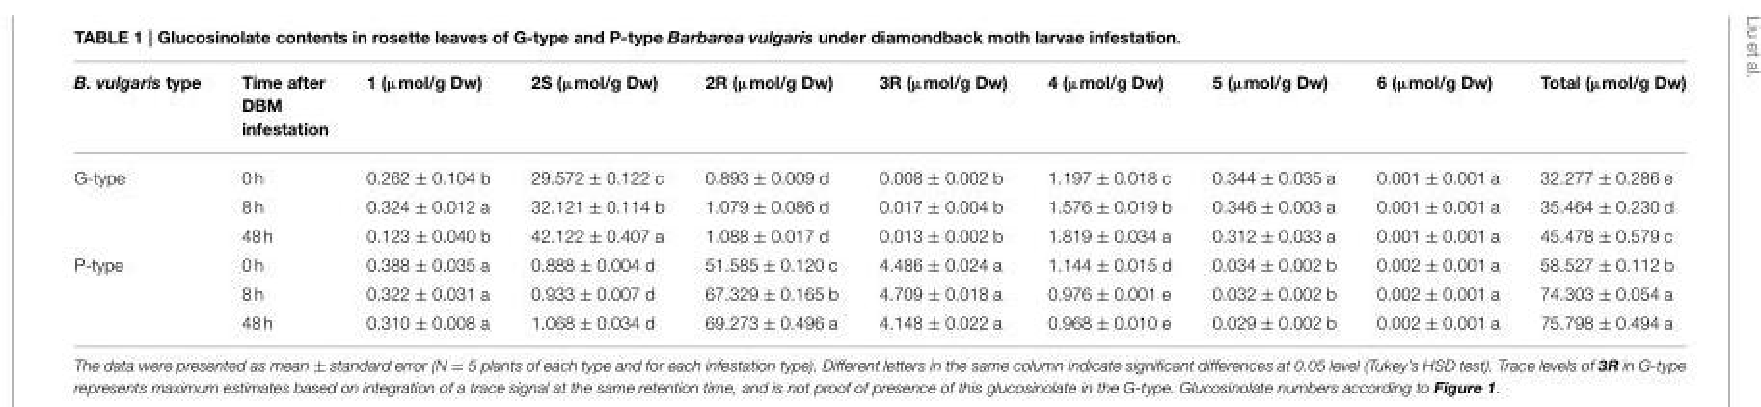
<table><thead><tr><td>B. vulgaris type</td><td>Time after DBM infestation</td><td>1 (µmol/g Dw)</td><td>2S (µmol/g Dw)</td><td>2R (µmol/g Dw)</td><td>3R (µmol/g Dw)</td><td>4 (µmol/g Dw)</td><td>5 (µmol/g Dw)</td><td>6 (µmol/g Dw)</td><td>Total (µmol/g Dw)</td></tr></thead><tbody><tr><td rowspan="3">G-type</td><td>0 h</td><td>0.262 ± 0.104 b</td><td>29.572 ± 0.122 c</td><td>0.893 ± 0.009 d</td><td>0.008 ± 0.002 b</td><td>1.197 ± 0.018 c</td><td>0.344 ± 0.035 a</td><td>0.001 ± 0.001 a</td><td>32.277 ± 0.286 e</td></tr><tr><td>8 h</td><td>0.324 ± 0.012 a</td><td>32.121 ± 0.114 b</td><td>1.079 ± 0.086 d</td><td>0.017 ± 0.004 b</td><td>1.576 ± 0.019 b</td><td>0.346 ± 0.003 a</td><td>0.001 ± 0.001 a</td><td>35.464 ± 0.230 d</td></tr><tr><td>48 h</td><td>0.123 ± 0.040 b</td><td>42.122 ± 0.407 a</td><td>1.088 ± 0.017 d</td><td>0.013 ± 0.002 b</td><td>1.819 ± 0.034 a</td><td>0.312 ± 0.033 a</td><td>0.001 ± 0.001 a</td><td>45.478 ± 0.579 c</td></tr><tr><td rowspan="3">P-type</td><td>0 h</td><td>0.388 ± 0.035 a</td><td>0.888 ± 0.004 d</td><td>51.585 ± 0.120 c</td><td>4.486 ± 0.024 a</td><td>1.144 ± 0.015 d</td><td>0.034 ± 0.002 b</td><td>0.002 ± 0.001 a</td><td>58.527 ± 0.112 b</td></tr><tr><td>8 h</td><td>0.322 ± 0.031 a</td><td>0.933 ± 0.007 d</td><td>67.329 ± 0.165 b</td><td>4.709 ± 0.018 a</td><td>0.976 ± 0.001 e</td><td>0.032 ± 0.002 b</td><td>0.002 ± 0.001 a</td><td>74.303 ± 0.054 a</td></tr><tr><td>48 h</td><td>0.310 ± 0.008 a</td><td>1.068 ± 0.034 d</td><td>69.273 ± 0.496 a</td><td>4.148 ± 0.022 a</td><td>0.968 ± 0.010 e</td><td>0.029 ± 0.002 b</td><td>0.002 ± 0.001 a</td><td>75.798 ± 0.494 a</td></tr></tbody></table>